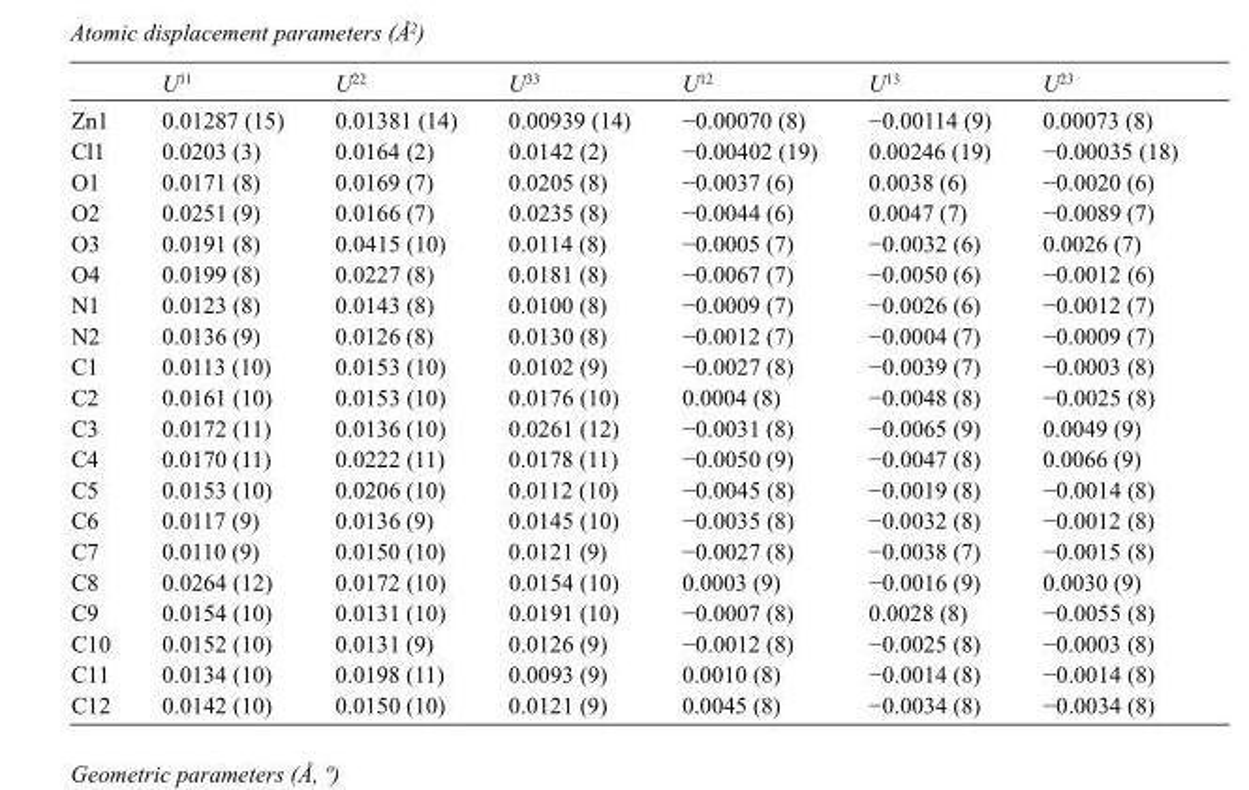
<table><thead><tr><td></td><td>U<sup>11</sup></td><td>U<sup>22</sup></td><td>U<sup>33</sup></td><td>U<sup>12</sup></td><td>U<sup>13</sup></td><td>U<sup>23</sup></td></tr></thead><tbody><tr><td>Zn1</td><td>0.01287 (15)</td><td>0.01381 (14)</td><td>0.00939 (14)</td><td>−0.00070 (8)</td><td>−0.00114 (9)</td><td>0.00073 (8)</td></tr><tr><td>Cl1</td><td>0.0203 (3)</td><td>0.0164 (2)</td><td>0.0142 (2)</td><td>−0.00402 (19)</td><td>0.00246 (19)</td><td>−0.00035 (18)</td></tr><tr><td>O1</td><td>0.0171 (8)</td><td>0.0169 (7)</td><td>0.0205 (8)</td><td>−0.0037 (6)</td><td>0.0038 (6)</td><td>−0.0020 (6)</td></tr><tr><td>O2</td><td>0.0251 (9)</td><td>0.0166 (7)</td><td>0.0235 (8)</td><td>−0.0044 (6)</td><td>0.0047 (7)</td><td>−0.0089 (7)</td></tr><tr><td>O3</td><td>0.0191 (8)</td><td>0.0415 (10)</td><td>0.0114 (8)</td><td>−0.0005 (7)</td><td>−0.0032 (6)</td><td>0.0026 (7)</td></tr><tr><td>O4</td><td>0.0199 (8)</td><td>0.0227 (8)</td><td>0.0181 (8)</td><td>−0.0067 (7)</td><td>−0.0050 (6)</td><td>−0.0012 (6)</td></tr><tr><td>N1</td><td>0.0123 (8)</td><td>0.0143 (8)</td><td>0.0100 (8)</td><td>−0.0009 (7)</td><td>−0.0026 (6)</td><td>−0.0012 (7)</td></tr><tr><td>N2</td><td>0.0136 (9)</td><td>0.0126 (8)</td><td>0.0130 (8)</td><td>−0.0012 (7)</td><td>−0.0004 (7)</td><td>−0.0009 (7)</td></tr><tr><td>C1</td><td>0.0113 (10)</td><td>0.0153 (10)</td><td>0.0102 (9)</td><td>−0.0027 (8)</td><td>−0.0039 (7)</td><td>−0.0003 (8)</td></tr><tr><td>C2</td><td>0.0161 (10)</td><td>0.0153 (10)</td><td>0.0176 (10)</td><td>0.0004 (8)</td><td>−0.0048 (8)</td><td>−0.0025 (8)</td></tr><tr><td>C3</td><td>0.0172 (11)</td><td>0.0136 (10)</td><td>0.0261 (12)</td><td>−0.0031 (8)</td><td>−0.0065 (9)</td><td>0.0049 (9)</td></tr><tr><td>C4</td><td>0.0170 (11)</td><td>0.0222 (11)</td><td>0.0178 (11)</td><td>−0.0050 (9)</td><td>−0.0047 (8)</td><td>0.0066 (9)</td></tr><tr><td>C5</td><td>0.0153 (10)</td><td>0.0206 (10)</td><td>0.0112 (10)</td><td>−0.0045 (8)</td><td>−0.0019 (8)</td><td>−0.0014 (8)</td></tr><tr><td>C6</td><td>0.0117 (9)</td><td>0.0136 (9)</td><td>0.0145 (10)</td><td>−0.0035 (8)</td><td>−0.0032 (8)</td><td>−0.0012 (8)</td></tr><tr><td>C7</td><td>0.0110 (9)</td><td>0.0150 (10)</td><td>0.0121 (9)</td><td>−0.0027 (8)</td><td>−0.0038 (7)</td><td>−0.0015 (8)</td></tr><tr><td>C8</td><td>0.0264 (12)</td><td>0.0172 (10)</td><td>0.0154 (10)</td><td>0.0003 (9)</td><td>−0.0016 (9)</td><td>0.0030 (9)</td></tr><tr><td>C9</td><td>0.0154 (10)</td><td>0.0131 (10)</td><td>0.0191 (10)</td><td>−0.0007 (8)</td><td>0.0028 (8)</td><td>−0.0055 (8)</td></tr><tr><td>C10</td><td>0.0152 (10)</td><td>0.0131 (9)</td><td>0.0126 (9)</td><td>−0.0012 (8)</td><td>−0.0025 (8)</td><td>−0.0003 (8)</td></tr><tr><td>C11</td><td>0.0134 (10)</td><td>0.0198 (11)</td><td>0.0093 (9)</td><td>0.0010 (8)</td><td>−0.0014 (8)</td><td>−0.0014 (8)</td></tr><tr><td>C12</td><td>0.0142 (10)</td><td>0.0150 (10)</td><td>0.0121 (9)</td><td>0.0045 (8)</td><td>−0.0034 (8)</td><td>−0.0034 (8)</td></tr></tbody></table>